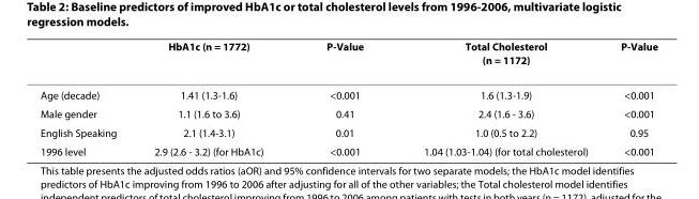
<table><thead><tr><td></td><td>HbA1c (n = 1772)</td><td>P-Value</td><td>Total Cholesterol (n = 1172)</td><td>P-Value</td></tr></thead><tbody><tr><td>Age (decade)</td><td>1.41 (1.3-1.6)</td><td>&lt;0.001</td><td>1.6 (1.3-1.9)</td><td>&lt;0.001</td></tr><tr><td>Male gender</td><td>1.1 (1.6 to 3.6)</td><td>0.41</td><td>2.4 (1.6 - 3.6)</td><td>&lt;0.001</td></tr><tr><td>English Speaking</td><td>2.1 (1.4-3.1)</td><td>0.01</td><td>1.0 (0.5 to 2.2)</td><td>0.95</td></tr><tr><td>1996 level</td><td>2.9 (2.6 - 3.2) (for HbA1c)</td><td>&lt;0.001</td><td>1.04 (1.03-1.04) (for total cholesterol)</td><td>&lt;0.001</td></tr></tbody></table>